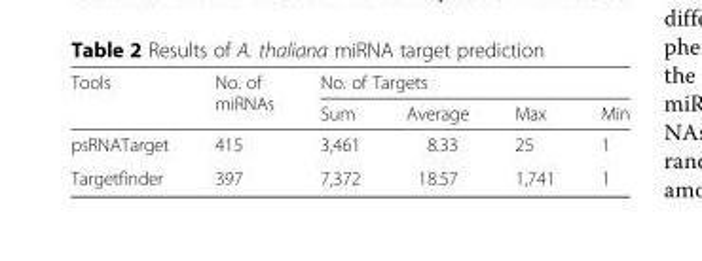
<table><thead><tr><td rowspan="2">Tools</td><td rowspan="2">No. of miRNAs</td><td colspan="4">No. of Targets</td></tr><tr><td>Sum</td><td>Average</td><td>Max</td><td>Min</td></tr></thead><tbody><tr><td>psRNATarget</td><td>415</td><td>3,461</td><td>8.33</td><td>25</td><td>1</td></tr><tr><td>Targetfinder</td><td>397</td><td>7,372</td><td>18.57</td><td>1,741</td><td>1</td></tr></tbody></table>